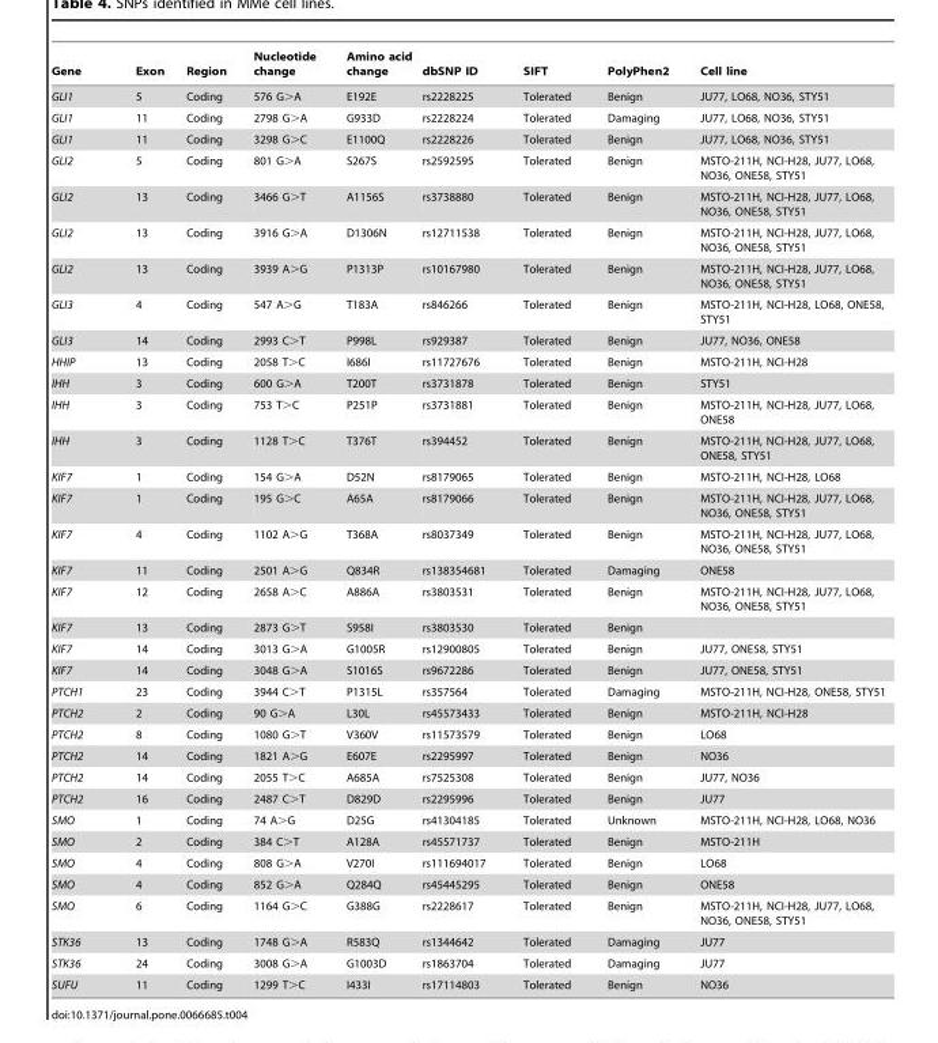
<table><thead><tr><td>Gene</td><td>Exon</td><td>Region</td><td>Nucleotide change</td><td>Amino acid change</td><td>dbSNP ID</td><td>SIFT</td><td>PolyPhen2</td><td>Cell line</td></tr></thead><tbody><tr><td>GLI1</td><td>5</td><td>Coding</td><td>576 G&gt;A</td><td>E192E</td><td>rs2228225</td><td>Tolerated</td><td>Benign</td><td>JU77, LO68, NO36, STY51</td></tr><tr><td>GLI1</td><td>11</td><td>Coding</td><td>2798 G&gt;A</td><td>G933D</td><td>rs2228224</td><td>Tolerated</td><td>Damaging</td><td>JU77, LO68, NO36, STY51</td></tr><tr><td>GLI1</td><td>11</td><td>Coding</td><td>3298 G&gt;C</td><td>E1100Q</td><td>rs2228226</td><td>Tolerated</td><td>Benign</td><td>JU77, LO68, NO36, STY51</td></tr><tr><td>GLI2</td><td>5</td><td>Coding</td><td>801 G&gt;A</td><td>S267S</td><td>rs2592595</td><td>Tolerated</td><td>Benign</td><td>MSTO-211H, NCI-H28, JU77, LO68, NO36, ONE58, STY51</td></tr><tr><td>GLI2</td><td>13</td><td>Coding</td><td>3466 G&gt;T</td><td>A1156S</td><td>rs3738880</td><td>Tolerated</td><td>Benign</td><td>MSTO-211H, NCI-H28, JU77, LO68, NO36, ONE58, STY51</td></tr><tr><td>GLI2</td><td>13</td><td>Coding</td><td>3916 G&gt;A</td><td>D1306N</td><td>rs12711538</td><td>Tolerated</td><td>Benign</td><td>MSTO-211H, NCI-H28, JU77, LO68, NO36, ONE58, STY51</td></tr><tr><td>GLI2</td><td>13</td><td>Coding</td><td>3939 A&gt;G</td><td>P1313P</td><td>rs10167980</td><td>Tolerated</td><td>Benign</td><td>MSTO-211H, NCI-H28, JU77, LO68, NO36, ONE58, STY51</td></tr><tr><td>GLI3</td><td>4</td><td>Coding</td><td>547 A&gt;G</td><td>T183A</td><td>rs846266</td><td>Tolerated</td><td>Benign</td><td>MSTO-211H, NCI-H28, LO68, ONE58, STY51</td></tr><tr><td>GLI3</td><td>14</td><td>Coding</td><td>2993 C&gt;T</td><td>P998L</td><td>rs929387</td><td>Tolerated</td><td>Benign</td><td>JU77, NO36, ONE58</td></tr><tr><td>HHIP</td><td>13</td><td>Coding</td><td>2058 T&gt;C</td><td>I686I</td><td>rs11727676</td><td>Tolerated</td><td>Benign</td><td>MSTO-211H, NCI-H28</td></tr><tr><td>IHH</td><td>3</td><td>Coding</td><td>600 G&gt;A</td><td>T200T</td><td>rs3731878</td><td>Tolerated</td><td>Benign</td><td>STY51</td></tr><tr><td>IHH</td><td>3</td><td>Coding</td><td>753 T&gt;C</td><td>P251P</td><td>rs3731881</td><td>Tolerated</td><td>Benign</td><td>MSTO-211H, NCI-H28, JU77, LO68, ONE58</td></tr><tr><td>IHH</td><td>3</td><td>Coding</td><td>1128 T&gt;C</td><td>T376T</td><td>rs394452</td><td>Tolerated</td><td>Benign</td><td>MSTO-211H, NCI-H28, JU77, LO68, ONE58, STY51</td></tr><tr><td>KIF7</td><td>1</td><td>Coding</td><td>154 G&gt;A</td><td>D52N</td><td>rs8179065</td><td>Tolerated</td><td>Benign</td><td>MSTO-211H, NCI-H28, LO68</td></tr><tr><td>KIF7</td><td>1</td><td>Coding</td><td>195 G&gt;C</td><td>A65A</td><td>rs8179066</td><td>Tolerated</td><td>Benign</td><td>MSTO-211H, NCI-H28, JU77, LO68, NO36, ONE58, STY51</td></tr><tr><td>KIF7</td><td>4</td><td>Coding</td><td>1102 A&gt;G</td><td>T368A</td><td>rs8037349</td><td>Tolerated</td><td>Benign</td><td>MSTO-211H, NCI-H28, JU77, LO68, NO36, ONE58, STY51</td></tr><tr><td>KIF7</td><td>11</td><td>Coding</td><td>2501 A&gt;G</td><td>Q834R</td><td>rs138354681</td><td>Tolerated</td><td>Damaging</td><td>ONE58</td></tr><tr><td>KIF7</td><td>12</td><td>Coding</td><td>2658 A&gt;C</td><td>A886A</td><td>rs3803531</td><td>Tolerated</td><td>Benign</td><td>MSTO-211H, NCI-H28, JU77, LO68, NO36, ONE58, STY51</td></tr><tr><td>KIF7</td><td>13</td><td>Coding</td><td>2873 G&gt;T</td><td>S958I</td><td>rs3803530</td><td>Tolerated</td><td>Benign</td><td></td></tr><tr><td>KIF7</td><td>14</td><td>Coding</td><td>3013 G&gt;A</td><td>G1005R</td><td>rs12900805</td><td>Tolerated</td><td>Benign</td><td>JU77, ONE58, STY51</td></tr><tr><td>KIF7</td><td>14</td><td>Coding</td><td>3048 G&gt;A</td><td>S1016S</td><td>rs9672286</td><td>Tolerated</td><td>Benign</td><td>JU77, ONE58, STY51</td></tr><tr><td>PTCH1</td><td>23</td><td>Coding</td><td>3944 C&gt;T</td><td>P1315L</td><td>rs357564</td><td>Tolerated</td><td>Damaging</td><td>MSTO-211H, NCI-H28, ONE58, STY51</td></tr><tr><td>PTCH2</td><td>2</td><td>Coding</td><td>90 G&gt;A</td><td>L30L</td><td>rs45573433</td><td>Tolerated</td><td>Benign</td><td>MSTO-211H, NCI-H28</td></tr><tr><td>PTCH2</td><td>8</td><td>Coding</td><td>1080 G&gt;T</td><td>V360V</td><td>rs11573579</td><td>Tolerated</td><td>Benign</td><td>LO68</td></tr><tr><td>PTCH2</td><td>14</td><td>Coding</td><td>1821 A&gt;G</td><td>E607E</td><td>rs2295997</td><td>Tolerated</td><td>Benign</td><td>NO36</td></tr><tr><td>PTCH2</td><td>14</td><td>Coding</td><td>2055 T&gt;C</td><td>A685A</td><td>rs7525308</td><td>Tolerated</td><td>Benign</td><td>JU77, NO36</td></tr><tr><td>PTCH2</td><td>16</td><td>Coding</td><td>2487 C&gt;T</td><td>D829D</td><td>rs2295996</td><td>Tolerated</td><td>Benign</td><td>JU77</td></tr><tr><td>SMO</td><td>1</td><td>Coding</td><td>74 A&gt;G</td><td>D25G</td><td>rs41304185</td><td>Tolerated</td><td>Unknown</td><td>MSTO-211H, NCI-H28, LO68, NO36</td></tr><tr><td>SMO</td><td>2</td><td>Coding</td><td>384 C&gt;T</td><td>A128A</td><td>rs45571737</td><td>Tolerated</td><td>Benign</td><td>MSTO-211H</td></tr><tr><td>SMO</td><td>4</td><td>Coding</td><td>808 G&gt;A</td><td>V270I</td><td>rs111694017</td><td>Tolerated</td><td>Benign</td><td>LO68</td></tr><tr><td>SMO</td><td>4</td><td>Coding</td><td>852 G&gt;A</td><td>Q284Q</td><td>rs45445295</td><td>Tolerated</td><td>Benign</td><td>ONE58</td></tr><tr><td>SMO</td><td>6</td><td>Coding</td><td>1164 G&gt;C</td><td>G388G</td><td>rs2228617</td><td>Tolerated</td><td>Benign</td><td>MSTO-211H, NCI-H28, JU77, LO68, NO36, ONE58, STY51</td></tr><tr><td>STK36</td><td>13</td><td>Coding</td><td>1748 G&gt;A</td><td>R583Q</td><td>rs1344642</td><td>Tolerated</td><td>Damaging</td><td>JU77</td></tr><tr><td>STK36</td><td>24</td><td>Coding</td><td>3008 G&gt;A</td><td>G1003D</td><td>rs1863704</td><td>Tolerated</td><td>Damaging</td><td>JU77</td></tr><tr><td>SUFU</td><td>11</td><td>Coding</td><td>1299 T&gt;C</td><td>I433I</td><td>rs17114803</td><td>Tolerated</td><td>Benign</td><td>NO36</td></tr></tbody></table>